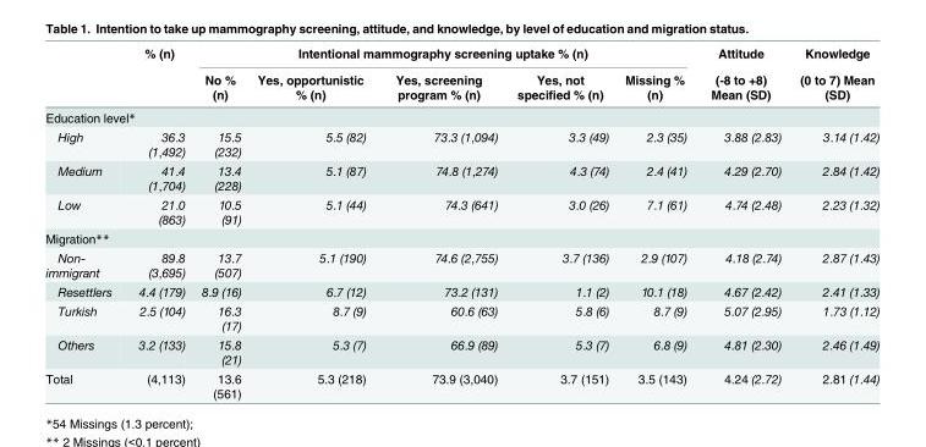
<table><thead><tr><td rowspan="2"></td><td rowspan="2">% (n)</td><td colspan="5">Intentional mammography screening uptake % (n)</td><td rowspan="2">Attitude (-8 to +8) Mean (SD)</td><td rowspan="2">Knowledge (0 to 7) Mean (SD)</td></tr><tr><td>No % (n)</td><td>Yes, opportunistic % (n)</td><td>Yes, screening program % (n)</td><td>Yes, not specified % (n)</td><td>Missing % (n)</td></tr></thead><tbody><tr><td colspan="9">Education level*</td></tr><tr><td>High</td><td>36.3 (1,492)</td><td>15.5 (232)</td><td>5.5 (82)</td><td>73.3 (1,094)</td><td>3.3 (49)</td><td>2.3 (35)</td><td>3.88 (2.83)</td><td>3.14 (1.42)</td></tr><tr><td>Medium</td><td>41.4 (1,704)</td><td>13.4 (228)</td><td>5.1 (87)</td><td>74.8 (1,274)</td><td>4.3 (74)</td><td>2.4 (41)</td><td>4.29 (2.70)</td><td>2.84 (1.42)</td></tr><tr><td>Low</td><td>21.0 (863)</td><td>10.5 (91)</td><td>5.1 (44)</td><td>74.3 (641)</td><td>3.0 (26)</td><td>7.1 (61)</td><td>4.74 (2.48)</td><td>2.23 (1.32)</td></tr><tr><td colspan="9">Migration**</td></tr><tr><td>Non- immigrant</td><td>89.8 (3,695)</td><td>13.7 (507)</td><td>5.1 (190)</td><td>74.6 (2,755)</td><td>3.7 (136)</td><td>2.9 (107)</td><td>4.18 (2.74)</td><td>2.87 (1.43)</td></tr><tr><td>Resettlers</td><td>4.4 (179)</td><td>8.9 (16)</td><td>6.7 (12)</td><td>73.2 (131)</td><td>1.1 (2)</td><td>10.1 (18)</td><td>4.67 (2.42)</td><td>2.41 (1.33)</td></tr><tr><td>Turkish</td><td>2.5 (104)</td><td>16.3 (17)</td><td>8.7 (9)</td><td>60.6 (63)</td><td>5.8 (6)</td><td>8.7 (9)</td><td>5.07 (2.95)</td><td>1.73 (1.12)</td></tr><tr><td>Others</td><td>3.2 (133)</td><td>15.8 (21)</td><td>5.3 (7)</td><td>66.9 (89)</td><td>5.3 (7)</td><td>6.8 (9)</td><td>4.81 (2.30)</td><td>2.46 (1.49)</td></tr><tr><td>Total</td><td>(4,113)</td><td>13.6 (561)</td><td>5.3 (218)</td><td>73.9 (3,040)</td><td>3.7 (151)</td><td>3.5 (143)</td><td>4.24 (2.72)</td><td>2.81 (1.44)</td></tr></tbody></table>